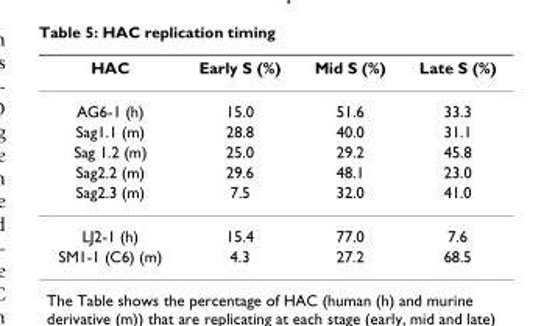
<table><thead><tr><td>HAC</td><td>Early S (%)</td><td>Mid S (%)</td><td>Late S (%)</td></tr></thead><tbody><tr><td>AG6-1 (h)</td><td>15.0</td><td>51.6</td><td>33.3</td></tr><tr><td>Sag1.1 (m)</td><td>28.8</td><td>40.0</td><td>31.1</td></tr><tr><td>Sag 1.2 (m)</td><td>25.0</td><td>29.2</td><td>45.8</td></tr><tr><td>Sag2.2 (m)</td><td>29.6</td><td>48.1</td><td>23.0</td></tr><tr><td>Sag2.3 (m)</td><td>7.5</td><td>32.0</td><td>41.0</td></tr><tr><td>LJ2-1 (h)</td><td>15.4</td><td>77.0</td><td>7.6</td></tr><tr><td>SM1-1 (C6) (m)</td><td>4.3</td><td>27.2</td><td>68.5</td></tr></tbody></table>